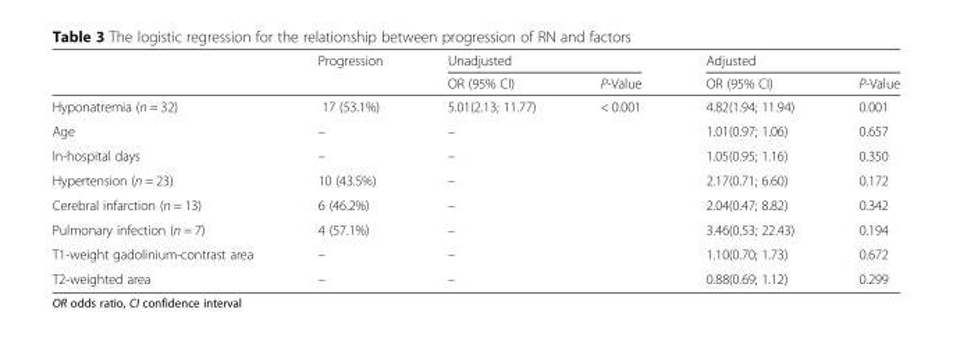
<table><thead><tr><td rowspan="2"></td><td rowspan="2">Progression</td><td colspan="2">Unadjusted</td><td colspan="2">Adjusted</td></tr><tr><td>OR (95% CI)</td><td>P-Value</td><td>OR (95% CI)</td><td>P-Value</td></tr></thead><tbody><tr><td>Hyponatremia (n = 32)</td><td>17 (53.1%)</td><td>5.01(2.13; 11.77)</td><td>&lt; 0.001</td><td>4.82(1.94; 11.94)</td><td>0.001</td></tr><tr><td>Age</td><td>–</td><td>–</td><td></td><td>1.01(0.97; 1.06)</td><td>0.657</td></tr><tr><td>In-hospital days</td><td>–</td><td>–</td><td></td><td>1.05(0.95; 1.16)</td><td>0.350</td></tr><tr><td>Hypertension (n = 23)</td><td>10 (43.5%)</td><td>–</td><td></td><td>2.17(0.71; 6.60)</td><td>0.172</td></tr><tr><td>Cerebral infarction (n = 13)</td><td>6 (46.2%)</td><td>–</td><td></td><td>2.04(0.47; 8.82)</td><td>0.342</td></tr><tr><td>Pulmonary infection (n = 7)</td><td>4 (57.1%)</td><td>–</td><td></td><td>3.46(0.53; 22.43)</td><td>0.194</td></tr><tr><td>T1-weight gadolinium-contrast area</td><td>–</td><td>–</td><td></td><td>1.10(0.70; 1.73)</td><td>0.672</td></tr><tr><td>T2-weighted area</td><td>–</td><td>–</td><td></td><td>0.88(0.69; 1.12)</td><td>0.299</td></tr></tbody></table>